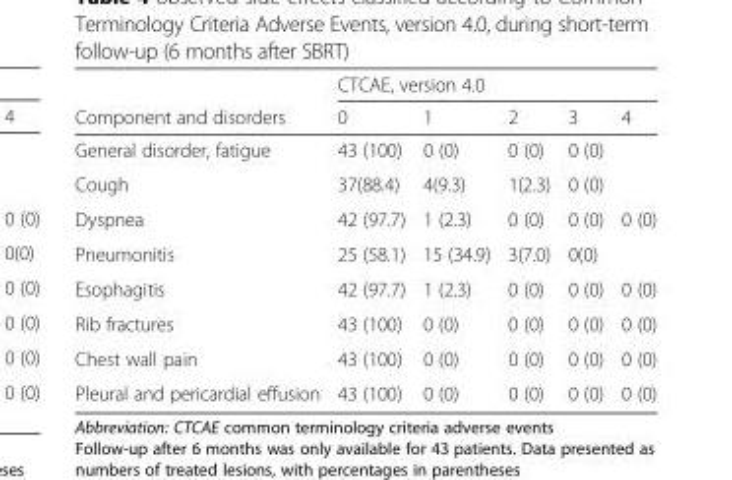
<table><thead><tr><td rowspan="2">Component and disorders</td><td colspan="5">CTCAE, version 4.0</td></tr><tr><td>0</td><td>1</td><td>2</td><td>3</td><td>4</td></tr></thead><tbody><tr><td>General disorder, fatigue</td><td>43 (100)</td><td>0 (0)</td><td>0 (0)</td><td>0 (0)</td><td></td></tr><tr><td>Cough</td><td>37(88.4)</td><td>4(9.3)</td><td>1(2.3)</td><td>0 (0)</td><td></td></tr><tr><td>Dyspnea</td><td>42 (97.7)</td><td>1 (2.3)</td><td>0 (0)</td><td>0 (0)</td><td>0 (0)</td></tr><tr><td>Pneumonitis</td><td>25 (58.1)</td><td>15 (34.9)</td><td>3(7.0)</td><td>0(0)</td><td></td></tr><tr><td>Esophagitis</td><td>42 (97.7)</td><td>1 (2.3)</td><td>0 (0)</td><td>0 (0)</td><td>0 (0)</td></tr><tr><td>Rib fractures</td><td>43 (100)</td><td>0 (0)</td><td>0 (0)</td><td>0 (0)</td><td>0 (0)</td></tr><tr><td>Chest wall pain</td><td>43 (100)</td><td>0 (0)</td><td>0 (0)</td><td>0 (0)</td><td>0 (0)</td></tr><tr><td>Pleural and pericardial effusion</td><td>43 (100)</td><td>0 (0)</td><td>0 (0)</td><td>0 (0)</td><td>0 (0)</td></tr></tbody></table>